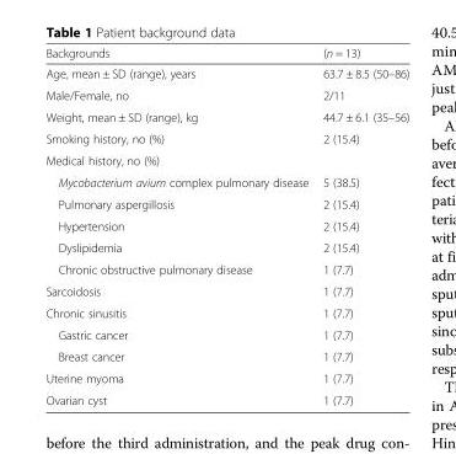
<table><thead><tr><td>Backgrounds</td><td>(n = 13)</td></tr></thead><tbody><tr><td>Age, mean ± SD (range), years</td><td>63.7 ± 8.5 (50–86)</td></tr><tr><td>Male/Female, no</td><td>2/11</td></tr><tr><td>Weight, mean ± SD (range), kg</td><td>44.7 ± 6.1 (35–56)</td></tr><tr><td>Smoking history, no (%)</td><td>2 (15.4)</td></tr><tr><td colspan="2">Medical history, no (%)</td></tr><tr><td>Mycobacterium avium complex pulmonary disease</td><td>5 (38.5)</td></tr><tr><td>Pulmonary aspergillosis</td><td>2 (15.4)</td></tr><tr><td>Hypertension</td><td>2 (15.4)</td></tr><tr><td>Dyslipidemia</td><td>2 (15.4)</td></tr><tr><td>Chronic obstructive pulmonary disease</td><td>1 (7.7)</td></tr><tr><td>Sarcoidosis</td><td>1 (7.7)</td></tr><tr><td>Chronic sinusitis</td><td>1 (7.7)</td></tr><tr><td>Gastric cancer</td><td>1 (7.7)</td></tr><tr><td>Breast cancer</td><td>1 (7.7)</td></tr><tr><td>Uterine myoma</td><td>1 (7.7)</td></tr><tr><td>Ovarian cyst</td><td>1 (7.7)</td></tr></tbody></table>